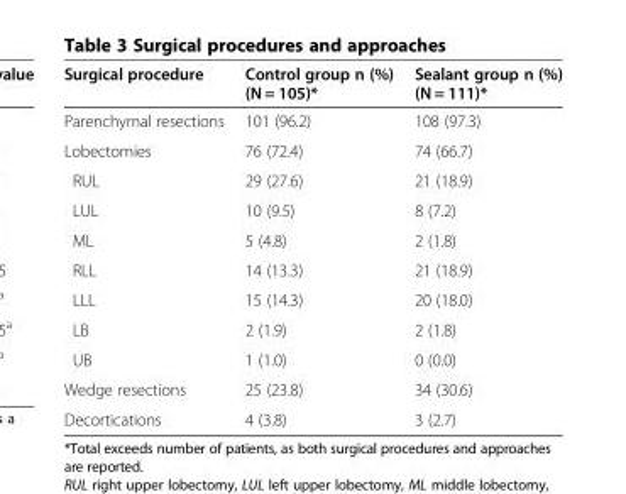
<table><thead><tr><td>Surgical procedure</td><td>Control group n (%) (N = 105)*</td><td>Sealant group n (%) (N = 111)*</td></tr></thead><tbody><tr><td>Parenchymal resections</td><td>101 (96.2)</td><td>108 (97.3)</td></tr><tr><td>Lobectomies</td><td>76 (72.4)</td><td>74 (66.7)</td></tr><tr><td>RUL</td><td>29 (27.6)</td><td>21 (18.9)</td></tr><tr><td>LUL</td><td>10 (9.5)</td><td>8 (7.2)</td></tr><tr><td>ML</td><td>5 (4.8)</td><td>2 (1.8)</td></tr><tr><td>RLL</td><td>14 (13.3)</td><td>21 (18.9)</td></tr><tr><td>LLL</td><td>15 (14.3)</td><td>20 (18.0)</td></tr><tr><td>LB</td><td>2 (1.9)</td><td>2 (1.8)</td></tr><tr><td>UB</td><td>1 (1.0)</td><td>0 (0.0)</td></tr><tr><td>Wedge resections</td><td>25 (23.8)</td><td>34 (30.6)</td></tr><tr><td>Decortications</td><td>4 (3.8)</td><td>3 (2.7)</td></tr></tbody></table>